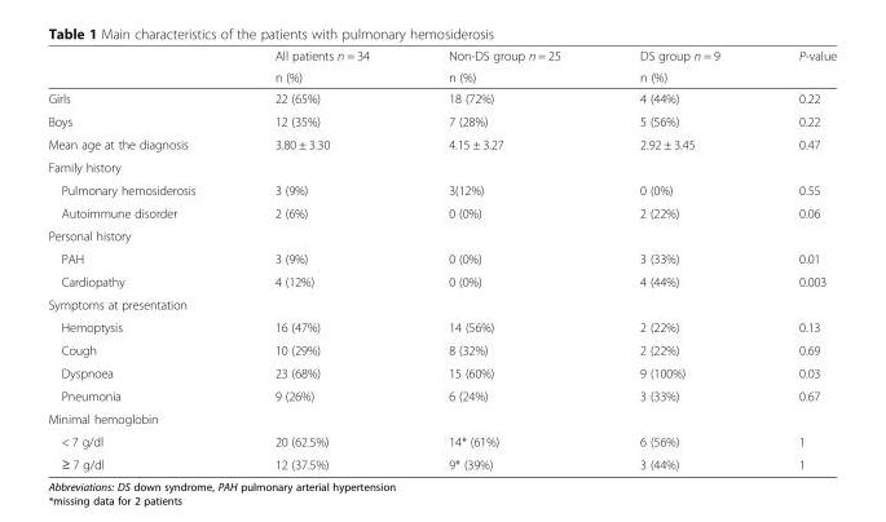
<table><thead><tr><td rowspan="2"></td><td rowspan="2">All patients n = 34 n (%)</td><td rowspan="2">Non-DS group n = 25 n (%)</td><td rowspan="2">DS group n = 9 n (%)</td><td rowspan="2">P-value</td></tr><tr></tr></thead><tbody><tr><td>Girls</td><td>22 (65%)</td><td>18 (72%)</td><td>4 (44%)</td><td>0.22</td></tr><tr><td>Boys</td><td>12 (35%)</td><td>7 (28%)</td><td>5 (56%)</td><td>0.22</td></tr><tr><td>Mean age at the diagnosis</td><td>3.80 ± 3.30</td><td>4.15 ± 3.27</td><td>2.92 ± 3.45</td><td>0.47</td></tr><tr><td colspan="5">Family history</td></tr><tr><td>Pulmonary hemosiderosis</td><td>3 (9%)</td><td>3(12%)</td><td>0 (0%)</td><td>0.55</td></tr><tr><td>Autoimmune disorder</td><td>2 (6%)</td><td>0 (0%)</td><td>2 (22%)</td><td>0.06</td></tr><tr><td colspan="5">Personal history</td></tr><tr><td>PAH</td><td>3 (9%)</td><td>0 (0%)</td><td>3 (33%)</td><td>0.01</td></tr><tr><td>Cardiopathy</td><td>4 (12%)</td><td>0 (0%)</td><td>4 (44%)</td><td>0.003</td></tr><tr><td colspan="5">Symptoms at presentation</td></tr><tr><td>Hemoptysis</td><td>16 (47%)</td><td>14 (56%)</td><td>2 (22%)</td><td>0.13</td></tr><tr><td>Cough</td><td>10 (29%)</td><td>8 (32%)</td><td>2 (22%)</td><td>0.69</td></tr><tr><td>Dyspnoea</td><td>23 (68%)</td><td>15 (60%)</td><td>9 (100%)</td><td>0.03</td></tr><tr><td>Pneumonia</td><td>9 (26%)</td><td>6 (24%)</td><td>3 (33%)</td><td>0.67</td></tr><tr><td colspan="5">Minimal hemoglobin</td></tr><tr><td>&lt; 7 g/dl</td><td>20 (62.5%)</td><td>14* (61%)</td><td>6 (56%)</td><td>1</td></tr><tr><td>≥ 7 g/dl</td><td>12 (37.5%)</td><td>9* (39%)</td><td>3 (44%)</td><td>1</td></tr></tbody></table>